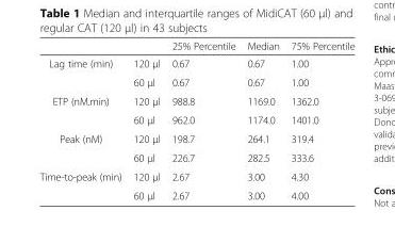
<table><thead><tr><td></td><td></td><td>25% Percentile</td><td>Median</td><td>75% Percentile</td></tr></thead><tbody><tr><td rowspan="2">Lag time (min)</td><td>120 μl</td><td>0.67</td><td>0.67</td><td>1.00</td></tr><tr><td>60 μl</td><td>0.67</td><td>0.67</td><td>1.00</td></tr><tr><td rowspan="2">ETP (nM.min)</td><td>120 μl</td><td>988.8</td><td>1169.0</td><td>1362.0</td></tr><tr><td>60 μl</td><td>962.0</td><td>1174.0</td><td>1401.0</td></tr><tr><td rowspan="2">Peak (nM)</td><td>120 μl</td><td>198.7</td><td>264.1</td><td>319.4</td></tr><tr><td>60 μl</td><td>226.7</td><td>282.5</td><td>333.6</td></tr><tr><td rowspan="2">Time-to-peak (min)</td><td>120 μl</td><td>2.67</td><td>3.00</td><td>4.30</td></tr><tr><td>60 μl</td><td>2.67</td><td>3.00</td><td>4.00</td></tr></tbody></table>